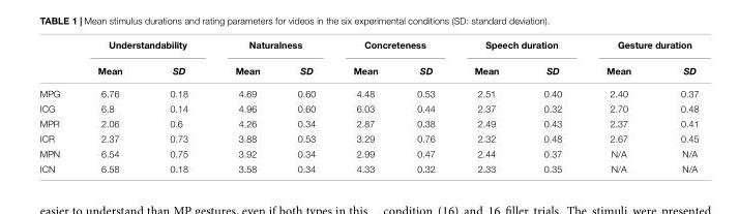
<table><thead><tr><td rowspan="2"></td><td colspan="2">Understandability</td><td colspan="2">Naturalness</td><td colspan="2">Concreteness</td><td colspan="2">Speech duration</td><td colspan="2">Gesture duration</td></tr><tr><td>Mean</td><td>SD</td><td>Mean</td><td>SD</td><td>Mean</td><td>SD</td><td>Mean</td><td>SD</td><td>Mean</td><td>SD</td></tr></thead><tbody><tr><td>MPG</td><td>6.76</td><td>0.18</td><td>4.69</td><td>0.60</td><td>4.48</td><td>0.53</td><td>2.51</td><td>0.40</td><td>2.40</td><td>0.37</td></tr><tr><td>ICG</td><td>6.8</td><td>0.14</td><td>4.96</td><td>0.60</td><td>6.03</td><td>0.44</td><td>2.37</td><td>0.32</td><td>2.70</td><td>0.48</td></tr><tr><td>MPR</td><td>2.06</td><td>0.6</td><td>4.26</td><td>0.34</td><td>2.87</td><td>0.38</td><td>2.49</td><td>0.43</td><td>2.37</td><td>0.41</td></tr><tr><td>ICR</td><td>2.37</td><td>0.73</td><td>3.88</td><td>0.53</td><td>3.29</td><td>0.76</td><td>2.32</td><td>0.48</td><td>2.67</td><td>0.45</td></tr><tr><td>MPN</td><td>6.54</td><td>0.75</td><td>3.92</td><td>0.34</td><td>2.99</td><td>0.47</td><td>2.44</td><td>0.37</td><td>N/A</td><td>N/A</td></tr><tr><td>ICN</td><td>6.58</td><td>0.18</td><td>3.58</td><td>0.34</td><td>4.33</td><td>0.32</td><td>2.33</td><td>0.35</td><td>N/A</td><td>N/A</td></tr></tbody></table>